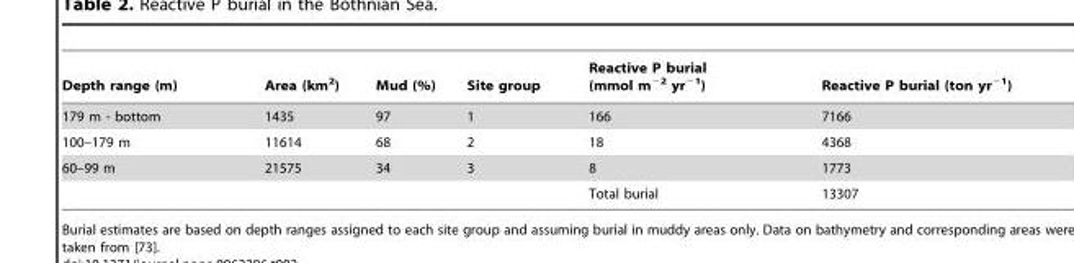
<table><thead><tr><td>Depth range (m)</td><td>Area (km<sup>2</sup>)</td><td>Mud (%)</td><td>Site group</td><td>Reactive P burial (mmol m<sup>−2</sup> yr<sup>−1</sup>)</td><td>Reactive P burial (ton yr<sup>−1</sup>)</td></tr></thead><tbody><tr><td>179 m - bottom</td><td>1435</td><td>97</td><td>1</td><td>166</td><td>7166</td></tr><tr><td>100–179 m</td><td>11614</td><td>68</td><td>2</td><td>18</td><td>4368</td></tr><tr><td rowspan="2">60–99 m</td><td>21575</td><td>34</td><td>3</td><td>8</td><td>1773</td></tr><tr><td></td><td></td><td></td><td>Total burial</td><td>13307</td></tr></tbody></table>